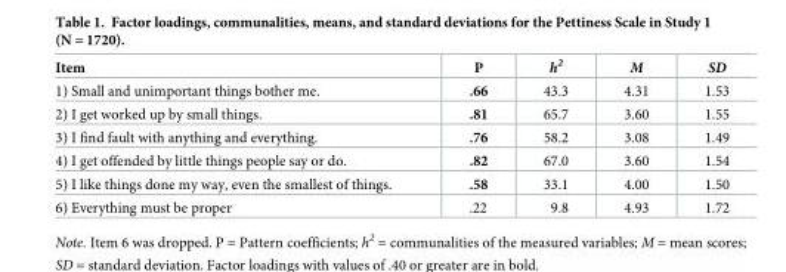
<table><thead><tr><td>Item</td><td>P</td><td>h<sup>2</sup></td><td>M</td><td>SD</td></tr></thead><tbody><tr><td>1) Small and unimportant things bother me.</td><td>.66</td><td>43.3</td><td>4.31</td><td>1.53</td></tr><tr><td>2) I get worked up by small things.</td><td>.81</td><td>65.7</td><td>3.60</td><td>1.55</td></tr><tr><td>3) I find fault with anything and everything.</td><td>.76</td><td>58.2</td><td>3.08</td><td>1.49</td></tr><tr><td>4) I get offended by little things people say or do.</td><td>.82</td><td>67.0</td><td>3.60</td><td>1.54</td></tr><tr><td>5) I like things done my way, even the smallest of things.</td><td>.58</td><td>33.1</td><td>4.00</td><td>1.50</td></tr><tr><td>6) Everything must be proper</td><td>.22</td><td>9.8</td><td>4.93</td><td>1.72</td></tr></tbody></table>